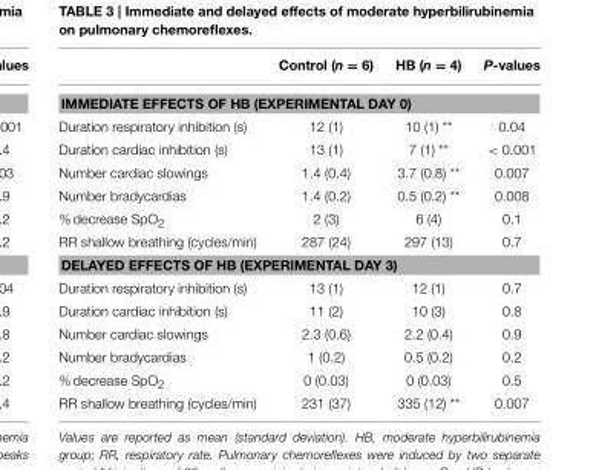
<table><thead><tr><td></td><td>Control (n = 6)</td><td>HB (n = 4)</td><td>P-values</td></tr></thead><tbody><tr><td colspan="4">IMMEDIATE EFFECTS OF HB (EXPERIMENTAL DAY 0)</td></tr><tr><td>Duration respiratory inhibition (s)</td><td>12 (1)</td><td>10 (1) **</td><td>0.04</td></tr><tr><td>Duration cardiac inhibition (s)</td><td>13 (1)</td><td>7 (1) **</td><td>&lt; 0.001</td></tr><tr><td>Number cardiac slowings</td><td>1.4 (0.4)</td><td>3.7 (0.8) **</td><td>0.007</td></tr><tr><td>Number bradycardias</td><td>1.4 (0.2)</td><td>0.5 (0.2) **</td><td>0.008</td></tr><tr><td>% decrease SpO<sub>2</sub></td><td>2 (3)</td><td>6 (4)</td><td>0.1</td></tr><tr><td>RR shallow breathing (cycles/min)</td><td>287 (24)</td><td>297 (13)</td><td>0.7</td></tr><tr><td colspan="4">DELAYED EFFECTS OF HB (EXPERIMENTAL DAY 3)</td></tr><tr><td>Duration respiratory inhibition (s)</td><td>13 (1)</td><td>12 (1)</td><td>0.7</td></tr><tr><td>Duration cardiac inhibition (s)</td><td>11 (2)</td><td>10 (3)</td><td>0.8</td></tr><tr><td>Number cardiac slowings</td><td>2.3 (0.6)</td><td>2.2 (0.4)</td><td>0.9</td></tr><tr><td>Number bradycardias</td><td>1 (0.2)</td><td>0.5 (0.2)</td><td>0.2</td></tr><tr><td>% decrease SpO<sub>2</sub></td><td>0 (0.03)</td><td>0 (0.03)</td><td>0.5</td></tr><tr><td>RR shallow breathing (cycles/min)</td><td>231 (37)</td><td>335 (12) **</td><td>0.007</td></tr></tbody></table>